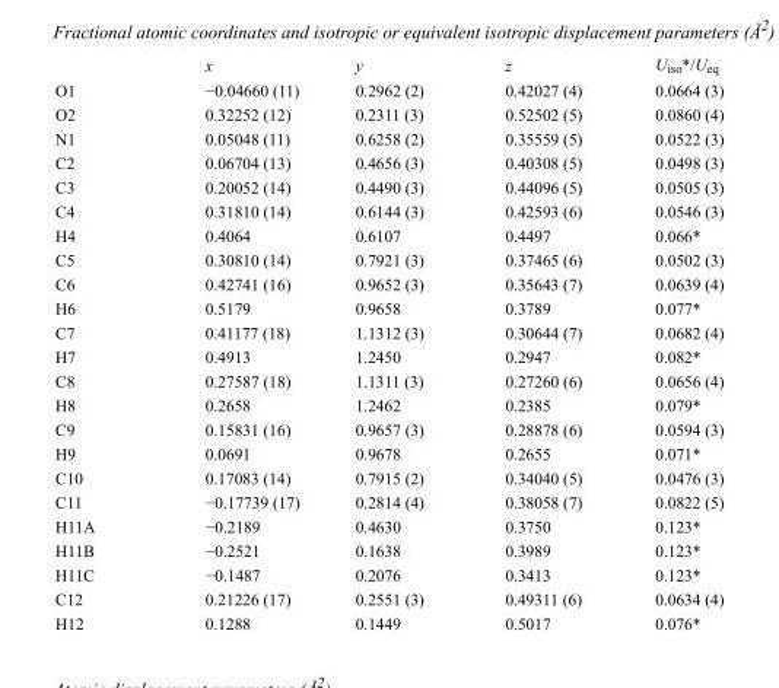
<table><thead><tr><td></td><td>x</td><td>y</td><td>z</td><td>U<sub>iso</sub>*/U<sub>eq</sub></td></tr></thead><tbody><tr><td>O1</td><td>−0.04660 (11)</td><td>0.2962 (2)</td><td>0.42027 (4)</td><td>0.0664 (3)</td></tr><tr><td>O2</td><td>0.32252 (12)</td><td>0.2311 (3)</td><td>0.52502 (5)</td><td>0.0860 (4)</td></tr><tr><td>N1</td><td>0.05048 (11)</td><td>0.6258 (2)</td><td>0.35559 (5)</td><td>0.0522 (3)</td></tr><tr><td>C2</td><td>0.06704 (13)</td><td>0.4656 (3)</td><td>0.40308 (5)</td><td>0.0498 (3)</td></tr><tr><td>C3</td><td>0.20052 (14)</td><td>0.4490 (3)</td><td>0.44096 (5)</td><td>0.0505 (3)</td></tr><tr><td>C4</td><td>0.31810 (14)</td><td>0.6144 (3)</td><td>0.42593 (6)</td><td>0.0546 (3)</td></tr><tr><td>H4</td><td>0.4064</td><td>0.6107</td><td>0.4497</td><td>0.066*</td></tr><tr><td>C5</td><td>0.30810 (14)</td><td>0.7921 (3)</td><td>0.37465 (6)</td><td>0.0502 (3)</td></tr><tr><td>C6</td><td>0.42741 (16)</td><td>0.9652 (3)</td><td>0.35643 (7)</td><td>0.0639 (4)</td></tr><tr><td>H6</td><td>0.5179</td><td>0.9658</td><td>0.3789</td><td>0.077*</td></tr><tr><td>C7</td><td>0.41177 (18)</td><td>1.1312 (3)</td><td>0.30644 (7)</td><td>0.0682 (4)</td></tr><tr><td>H7</td><td>0.4913</td><td>1.2450</td><td>0.2947</td><td>0.082*</td></tr><tr><td>C8</td><td>0.27587 (18)</td><td>1.1311 (3)</td><td>0.27260 (6)</td><td>0.0656 (4)</td></tr><tr><td>H8</td><td>0.2658</td><td>1.2462</td><td>0.2385</td><td>0.079*</td></tr><tr><td>C9</td><td>0.15831 (16)</td><td>0.9657 (3)</td><td>0.28878 (6)</td><td>0.0594 (3)</td></tr><tr><td>H9</td><td>0.0691</td><td>0.9678</td><td>0.2655</td><td>0.071*</td></tr><tr><td>C10</td><td>0.17083 (14)</td><td>0.7915 (2)</td><td>0.34040 (5)</td><td>0.0476 (3)</td></tr><tr><td>C11</td><td>−0.17739 (17)</td><td>0.2814 (4)</td><td>0.38058 (7)</td><td>0.0822 (5)</td></tr><tr><td>H11A</td><td>−0.2189</td><td>0.4630</td><td>0.3750</td><td>0.123*</td></tr><tr><td>H11B</td><td>−0.2521</td><td>0.1638</td><td>0.3989</td><td>0.123*</td></tr><tr><td>H11C</td><td>−0.1487</td><td>0.2076</td><td>0.3413</td><td>0.123*</td></tr><tr><td>C12</td><td>0.21226 (17)</td><td>0.2551 (3)</td><td>0.49311 (6)</td><td>0.0634 (4)</td></tr><tr><td>H12</td><td>0.1288</td><td>0.1449</td><td>0.5017</td><td>0.076*</td></tr></tbody></table>